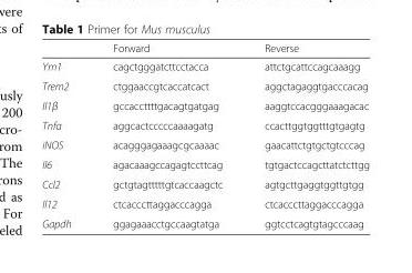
<table><thead><tr><td></td><td>Forward</td><td>Reverse</td></tr></thead><tbody><tr><td>Ym1</td><td>cagctgggatcttcctacca</td><td>attctgcattccagcaaagg</td></tr><tr><td>Trem2</td><td>ctggaaccgtcaccatcact</td><td>aggctagaggtgacccacag</td></tr><tr><td>Il1β</td><td>gccaccttttgacagtgatgag</td><td>aaggtccacgggaaagacac</td></tr><tr><td>Tnfα</td><td>aggcactcccccaaaagatg</td><td>ccacttggtggtttgtgagtg</td></tr><tr><td>iNOS</td><td>acagggagaaagcgcaaaac</td><td>gaacattctgtgctgtcccag</td></tr><tr><td>Il6</td><td>agacaaagccagagtccttcag</td><td>tgtgactccagcttatctcttgg</td></tr><tr><td>Ccl2</td><td>gctgtagtttttgtcaccaagctc</td><td>agtgcttgaggtggttgtgg</td></tr><tr><td>Il12</td><td>ctcacccttaggacccagga</td><td>ctcacccttaggacccagga</td></tr><tr><td>Gapdh</td><td>ggagaaacctgccaagtatga</td><td>ggtcctcagtgtagcccaag</td></tr></tbody></table>